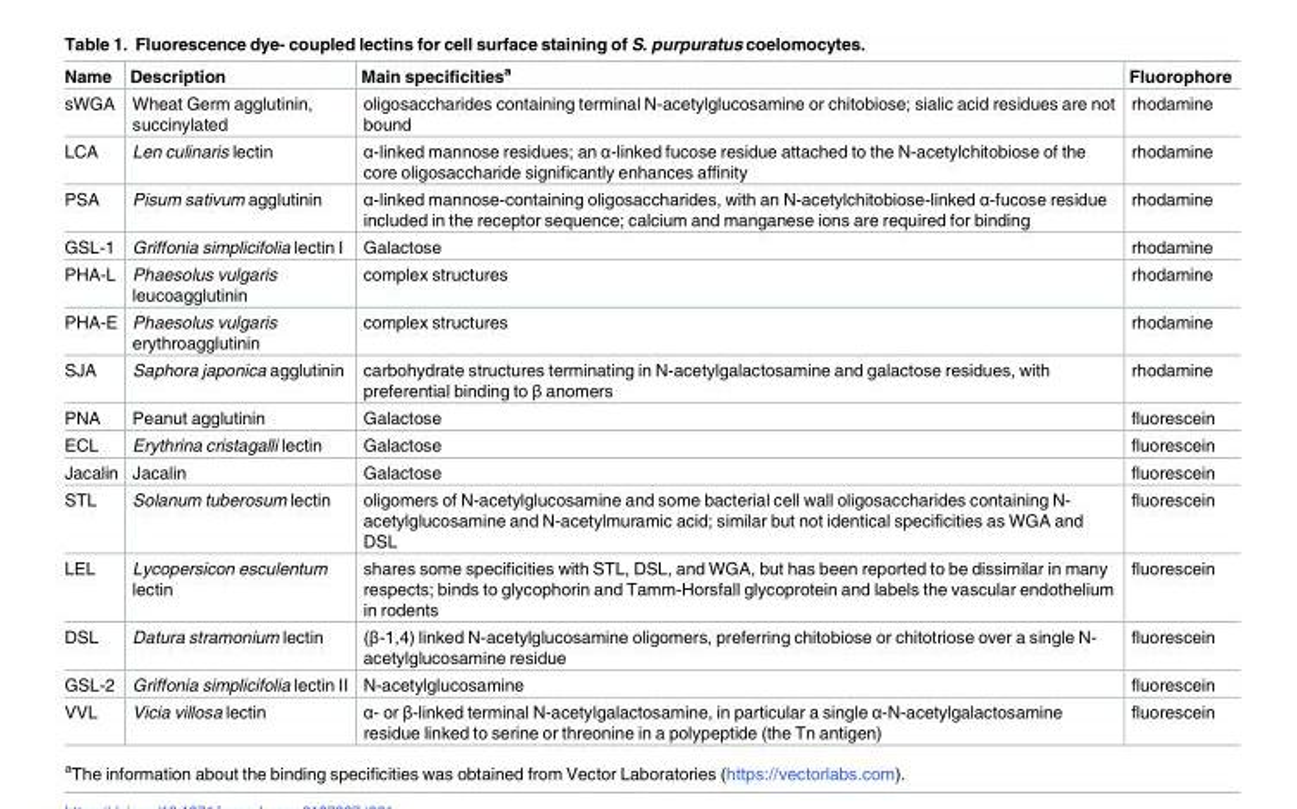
<table><thead><tr><td>Name</td><td>Description</td><td>Main specificities<sup>a</sup></td><td>Fluorophore</td></tr></thead><tbody><tr><td>sWGA</td><td>Wheat Germ agglutinin, succinylated</td><td>oligosaccharides containing terminal N-acetylglucosamine or chitobiose; sialic acid residues are not bound</td><td>rhodamine</td></tr><tr><td>LCA</td><td>Len culinaris lectin</td><td>α-linked mannose residues; an α-linked fucose residue attached to the N-acetylchitobiose of the core oligosaccharide significantly enhances affinity</td><td>rhodamine</td></tr><tr><td>PSA</td><td>Pisum sativum agglutinin</td><td>α-linked mannose-containing oligosaccharides, with an N-acetylchitobiose-linked α-fucose residue included in the receptor sequence; calcium and manganese ions are required for binding</td><td>rhodamine</td></tr><tr><td>GSL-1</td><td>Griffonia simplicifolia lectin I</td><td>Galactose</td><td>rhodamine</td></tr><tr><td>PHA-L</td><td>Phaesolus vulgaris leucoagglutinin</td><td>complex structures</td><td>rhodamine</td></tr><tr><td>PHA-E</td><td>Phaesolus vulgaris erythroagglutinin</td><td>complex structures</td><td>rhodamine</td></tr><tr><td>SJA</td><td>Saphora japonica agglutinin</td><td>carbohydrate structures terminating in N-acetylgalactosamine and galactose residues, with preferential binding to β anomers</td><td>rhodamine</td></tr><tr><td>PNA</td><td>Peanut agglutinin</td><td>Galactose</td><td>fluorescein</td></tr><tr><td>ECL</td><td>Erythrina cristagalli lectin</td><td>Galactose</td><td>fluorescein</td></tr><tr><td>Jacalin</td><td>Jacalin</td><td>Galactose</td><td>fluorescein</td></tr><tr><td>STL</td><td>Solanum tuberosum lectin</td><td>oligomers of N-acetylglucosamine and some bacterial cell wall oligosaccharides containing N- acetylglucosamine and N-acetylmuramic acid; similar but not identical specificities as WGA and DSL</td><td>fluorescein</td></tr><tr><td>LEL</td><td>Lycopersicon esculentum lectin</td><td>shares some specificities with STL, DSL, and WGA, but has been reported to be dissimilar in many respects; binds to glycophorin and Tamm-Horsfall glycoprotein and labels the vascular endothelium in rodents</td><td>fluorescein</td></tr><tr><td>DSL</td><td>Datura stramonium lectin</td><td>(β-1,4) linked N-acetylglucosamine oligomers, preferring chitobiose or chitotriose over a single N- acetylglucosamine residue</td><td>fluorescein</td></tr><tr><td>GSL-2</td><td>Griffonia simplicifolia lectin II</td><td>N-acetylglucosamine</td><td>fluorescein</td></tr><tr><td>VVL</td><td>Vicia villosa lectin</td><td>α- or β-linked terminal N-acetylgalactosamine, in particular a single α-N-acetylgalactosamine residue linked to serine or threonine in a polypeptide (the Tn antigen)</td><td>fluorescein</td></tr></tbody></table>